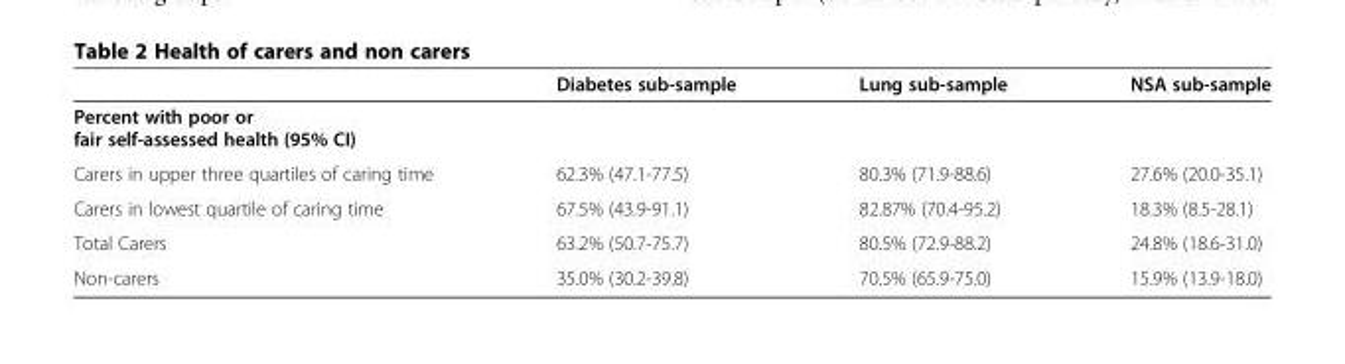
<table><thead><tr><td></td><td>Diabetes sub-sample</td><td>Lung sub-sample</td><td>NSA sub-sample</td></tr></thead><tbody><tr><td colspan="4">Percent with poor or fair self-assessed health (95% CI)</td></tr><tr><td>Carers in upper three quartiles of caring time</td><td>62.3% (47.1-77.5)</td><td>80.3% (71.9-88.6)</td><td>27.6% (20.0-35.1)</td></tr><tr><td>Carers in lowest quartile of caring time</td><td>67.5% (43.9-91.1)</td><td>82.87% (70.4-95.2)</td><td>18.3% (8.5-28.1)</td></tr><tr><td>Total Carers</td><td>63.2% (50.7-75.7)</td><td>80.5% (72.9-88.2)</td><td>24.8% (18.6-31.0)</td></tr><tr><td>Non-carers</td><td>35.0% (30.2-39.8)</td><td>70.5% (65.9-75.0)</td><td>15.9% (13.9-18.0)</td></tr></tbody></table>